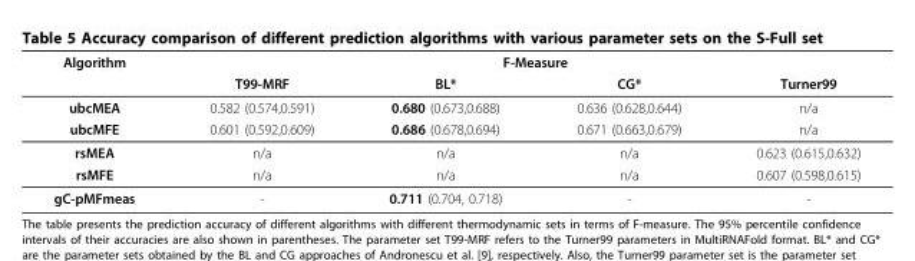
<table><thead><tr><td rowspan="2">Algorithm</td><td colspan="4">F-Measure</td></tr><tr><td>T99-MRF</td><td>BL*</td><td>CG*</td><td>Turner99</td></tr></thead><tbody><tr><td>ubcMEA</td><td>0.582 (0.574,0.591)</td><td>0.680 (0.673,0.688)</td><td>0.636 (0.628,0.644)</td><td>n/a</td></tr><tr><td>ubcMFE</td><td>0.601 (0.592,0.609)</td><td>0.686 (0.678,0.694)</td><td>0.671 (0.663,0.679)</td><td>n/a</td></tr><tr><td>rsMEA</td><td>n/a</td><td>n/a</td><td>n/a</td><td>0.623 (0.615,0.632)</td></tr><tr><td>rsMFE</td><td>n/a</td><td>n/a</td><td>n/a</td><td>0.607 (0.598,0.615)</td></tr><tr><td>gC-pMFmeas</td><td>-</td><td>0.711 (0.704, 0.718)</td><td>-</td><td>-</td></tr></tbody></table>